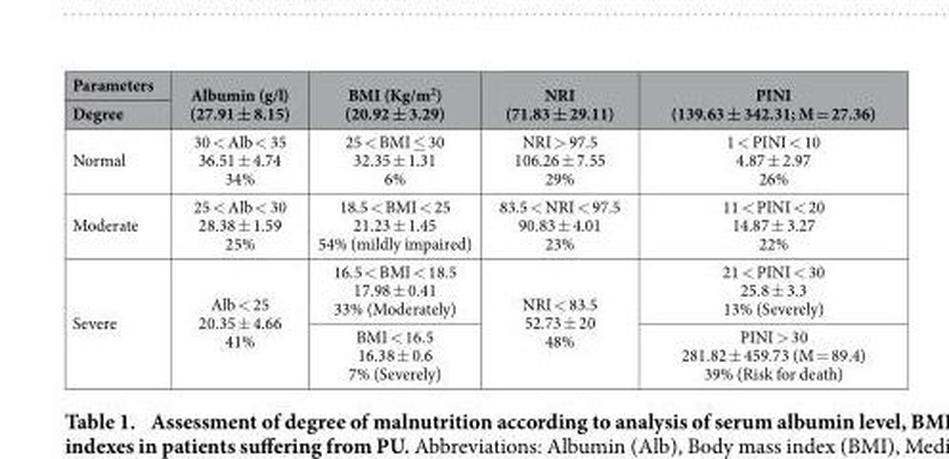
<table><thead><tr><td rowspan="2">Parameters Degree</td><td rowspan="2">Albumin (g/l) (27.91 ± 8.15)</td><td rowspan="2">BMI (Kg/m<sup>2</sup>) (20.92 ± 3.29)</td><td rowspan="2">NRI (71.83 ± 29.11)</td><td rowspan="2">PINI (139.63 ± 342.31; M = 27.36)</td></tr><tr></tr></thead><tbody><tr><td>Normal</td><td>30 &lt; Alb &lt; 35 36.51 ± 4.74 34%</td><td>25 &lt; BMI ≤ 30 32.35 ± 1.31 6%</td><td>NRI &gt; 97.5 106.26 ± 7.55 29%</td><td>1 &lt; PINI &lt; 10 4.87 ± 2.97 26%</td></tr><tr><td>Moderate</td><td>25 &lt; Alb &lt; 30 28.38 ± 1.59 25%</td><td>18.5 &lt; BMI &lt; 25 21.23 ± 1.45 54% (mildly impaired)</td><td>83.5 &lt; NRI &lt; 97.5 90.83 ± 4.01 23%</td><td>11 &lt; PINI &lt; 20 14.87 ± 3.27 22%</td></tr><tr><td rowspan="2">Severe</td><td rowspan="2">Alb &lt; 25 20.35 ± 4.66 41%</td><td>16.5 &lt; BMI &lt; 18.5 17.98 ± 0.41 33% (Moderately)</td><td rowspan="2">NRI &lt; 83.5 52.73 ± 20 48%</td><td>21 &lt; PINI &lt; 30 25.8 ± 3.3 13% (Severely)</td></tr><tr><td>BMI &lt; 16.5 16.38 ± 0.6 7% (Severely)</td><td>PINI &gt; 30 281.82 ± 459.73 (M = 89.4) 39% (Risk for death)</td></tr></tbody></table>